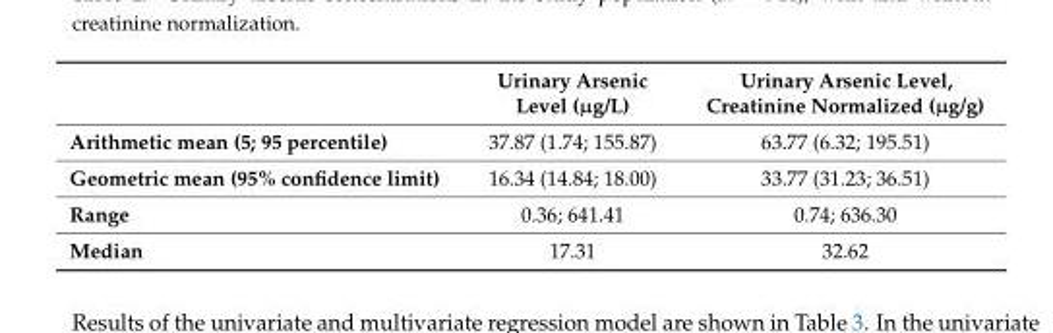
<table><thead><tr><td></td><td>Urinary Arsenic Level (µg/L)</td><td>Urinary Arsenic Level, Creatinine Normalized (µg/g)</td></tr></thead><tbody><tr><td>Arithmetic mean (5; 95 percentile)</td><td>37.87 (1.74; 155.87)</td><td>63.77 (6.32; 195.51)</td></tr><tr><td>Geometric mean (95% confidence limit)</td><td>16.34 (14.84; 18.00)</td><td>33.77 (31.23; 36.51)</td></tr><tr><td>Range</td><td>0.36; 641.41</td><td>0.74; 636.30</td></tr><tr><td>Median</td><td>17.31</td><td>32.62</td></tr></tbody></table>